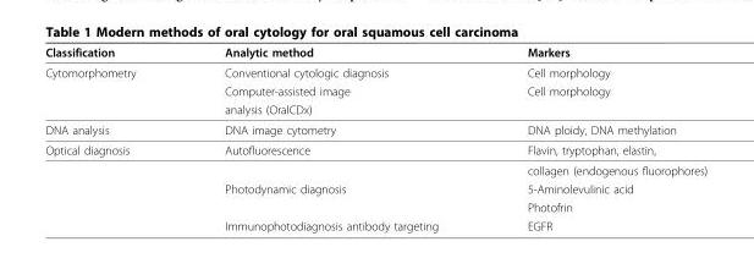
<table><thead><tr><td>Classification</td><td>Analytic method</td><td>Markers</td></tr></thead><tbody><tr><td rowspan="3">Cytomorphometry</td><td>Conventional cytologic diagnosis</td><td>Cell morphology</td></tr><tr><td>Computer-assisted image</td><td>Cell morphology</td></tr><tr><td>analysis (OralCDx)</td><td></td></tr><tr><td>DNA analysis</td><td>DNA image cytometry</td><td>DNA ploidy, DNA methylation</td></tr><tr><td rowspan="5">Optical diagnosis</td><td>Autofluorescence</td><td>Flavin, tryptophan, elastin,</td></tr><tr><td></td><td>collagen (endogenous fluorophores)</td></tr><tr><td>Photodynamic diagnosis</td><td>5-Aminolevulinic acid</td></tr><tr><td></td><td>Photofrin</td></tr><tr><td>Immunophotodiagnosis antibody targeting</td><td>EGFR</td></tr></tbody></table>